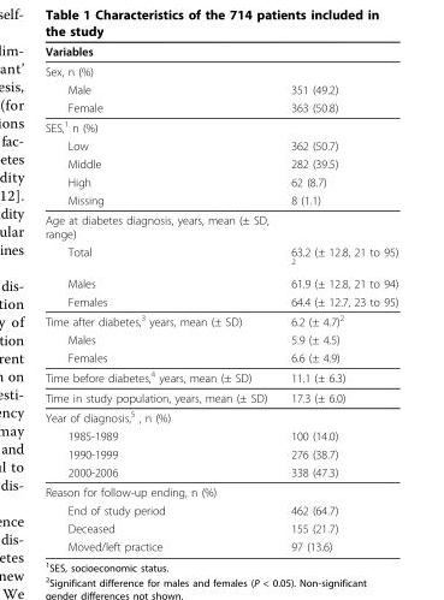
<table><thead><tr><td>Variables</td><td></td></tr></thead><tbody><tr><td colspan="2">Sex, n (%)</td></tr><tr><td>Male</td><td>351 (49.2)</td></tr><tr><td>Female</td><td>363 (50.8)</td></tr><tr><td colspan="2">SES,<sup>1</sup> n (%)</td></tr><tr><td>Low</td><td>362 (50.7)</td></tr><tr><td>Middle</td><td>282 (39.5)</td></tr><tr><td>High</td><td>62 (8.7)</td></tr><tr><td>Missing</td><td>8 (1.1)</td></tr><tr><td colspan="2">Age at diabetes diagnosis, years, mean (± SD, range)</td></tr><tr><td>Total</td><td>63.2 (± 12.8, 21 to 95) <sup>2</sup></td></tr><tr><td>Males</td><td>61.9 (± 12.8, 21 to 94)</td></tr><tr><td>Females</td><td>64.4 (± 12.7, 23 to 95)</td></tr><tr><td>Time after diabetes,<sup>3</sup> years, mean (± SD)</td><td>6.2 (± 4.7)<sup>2</sup></td></tr><tr><td>Males</td><td>5.9 (± 4.5)</td></tr><tr><td>Females</td><td>6.6 (± 4.9)</td></tr><tr><td>Time before diabetes,<sup>4</sup> years, mean (± SD)</td><td>11.1 (± 6.3)</td></tr><tr><td>Time in study population, years, mean (± SD)</td><td>17.3 (± 6.0)</td></tr><tr><td colspan="2">Year of diagnosis,<sup>5</sup> , n (%)</td></tr><tr><td>1985-1989</td><td>100 (14.0)</td></tr><tr><td>1990-1999</td><td>276 (38.7)</td></tr><tr><td>2000-2006</td><td>338 (47.3)</td></tr><tr><td colspan="2">Reason for follow-up ending, n (%)</td></tr><tr><td>End of study period</td><td>462 (64.7)</td></tr><tr><td>Deceased</td><td>155 (21.7)</td></tr><tr><td>Moved/left practice</td><td>97 (13.6)</td></tr></tbody></table>